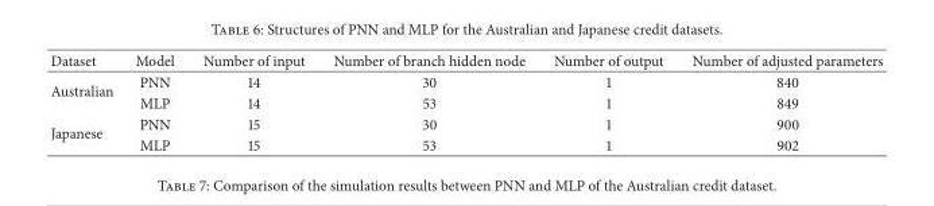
<table><thead><tr><td>Dataset</td><td>Model</td><td>Number of input</td><td>Number of branch hidden node</td><td>Number of output</td><td>Number of adjusted parameters</td></tr></thead><tbody><tr><td rowspan="2">Australian</td><td>PNN</td><td>14</td><td>30</td><td>1</td><td>840</td></tr><tr><td>MLP</td><td>14</td><td>53</td><td>1</td><td>849</td></tr><tr><td rowspan="2">Japanese</td><td>PNN</td><td>15</td><td>30</td><td>1</td><td>900</td></tr><tr><td>MLP</td><td>15</td><td>53</td><td>1</td><td>902</td></tr></tbody></table>